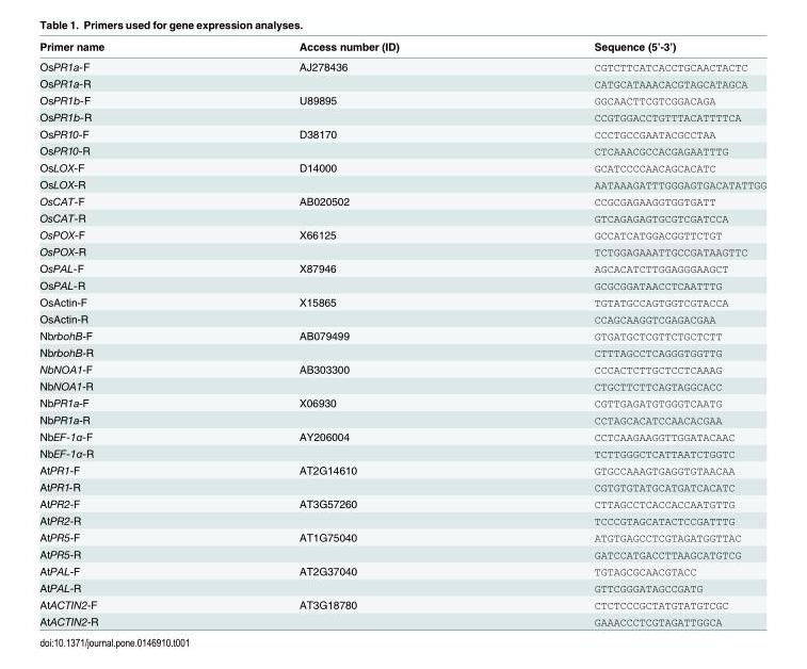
<table><thead><tr><td>Primer name</td><td>Access number (ID)</td><td>Sequence (5’-3’)</td></tr></thead><tbody><tr><td>OsPR1a-F</td><td>AJ278436</td><td>CGTCTTCATCACCTGCAACTACTC</td></tr><tr><td>OsPR1a-R</td><td></td><td>CATGCATAAACACGTAGCATAGCA</td></tr><tr><td>OsPR1b-F</td><td>U89895</td><td>GGCAACTTCGTCGGACAGA</td></tr><tr><td>OsPR1b-R</td><td></td><td>CCGTGGACCTGTTTACATTTTCA</td></tr><tr><td>OsPR10-F</td><td>D38170</td><td>CCCTGCCGAATACGCCTAA</td></tr><tr><td>OsPR10-R</td><td></td><td>CTCAAACGCCACGAGAATTTG</td></tr><tr><td>OsLOX-F</td><td>D14000</td><td>GCATCCCCAACAGCACATC</td></tr><tr><td>OsLOX-R</td><td></td><td>AATAAAGATTTGGGAGTGACATATTGG</td></tr><tr><td>OsCAT-F</td><td>AB020502</td><td>CCGCGAGAAGGTGGTGATT</td></tr><tr><td>OsCAT-R</td><td></td><td>GTCAGAGAGTGCGTCGATCCA</td></tr><tr><td>OsPOX-F</td><td>X66125</td><td>GCCATCATGGACGGTTCTGT</td></tr><tr><td>OsPOX-R</td><td></td><td>TCTGGAGAAATTGCCGATAAGTTC</td></tr><tr><td>OsPAL-F</td><td>X87946</td><td>AGCACATCTTGGAGGGAAGCT</td></tr><tr><td>OsPAL-R</td><td></td><td>GCGCGGATAACCTCAATTTG</td></tr><tr><td>OsActin-F</td><td>X15865</td><td>TGTATGCCAGTGGTCGTACCA</td></tr><tr><td>OsActin-R</td><td></td><td>CCAGCAAGGTCGAGACGAA</td></tr><tr><td>NbrbohB-F</td><td>AB079499</td><td>GTGATGCTCGTTCTGCTCTT</td></tr><tr><td>NbrbohB-R</td><td></td><td>CTTTAGCCTCAGGGTGGTTG</td></tr><tr><td>NbNOA1-F</td><td>AB303300</td><td>CCCACTCTTGCTCCTCAAAG</td></tr><tr><td>NbNOA1-R</td><td></td><td>CTGCTTCTTCAGTAGGCACC</td></tr><tr><td>NbPR1a-F</td><td>X06930</td><td>CGTTGAGATGTGGGTCAATG</td></tr><tr><td>NbPR1a-R</td><td></td><td>CCTAGCACATCCAACACGAA</td></tr><tr><td>NbEF-1α-F</td><td>AY206004</td><td>CCTCAAGAAGGTTGGATACAAC</td></tr><tr><td>NbEF-1α-R</td><td></td><td>TCTTGGGCTCATTAATCTGGTC</td></tr><tr><td>AtPR1-F</td><td>AT2G14610</td><td>GTGCCAAAGTGAGGTGTAACAA</td></tr><tr><td>AtPR1-R</td><td></td><td>CGTGTGTATGCATGATCACATC</td></tr><tr><td>AtPR2-F</td><td>AT3G57260</td><td>CTTAGCCTCACCACCAATGTTG</td></tr><tr><td>AtPR2-R</td><td></td><td>TCCCGTAGCATACTCCGATTTG</td></tr><tr><td>AtPR5-F</td><td>AT1G75040</td><td>ATGTGAGCCTCGTAGATGGTTAC</td></tr><tr><td>AtPR5-R</td><td></td><td>GATCCATGACCTTAAGCATGTCG</td></tr><tr><td>AtPAL-F</td><td>AT2G37040</td><td>TGTAGCGCAACGTACC</td></tr><tr><td>AtPAL-R</td><td></td><td>GTTCGGGATAGCCGATG</td></tr><tr><td>AtACTIN2-F</td><td>AT3G18780</td><td>CTCTCCCGCTATGTATGTCGC</td></tr><tr><td>AtACTIN2-R</td><td></td><td>GAAACCCTCGTAGATTGGCA</td></tr></tbody></table>